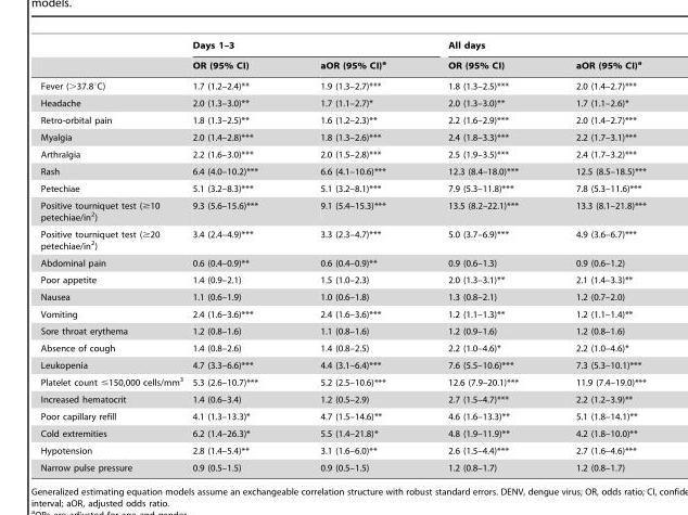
<table><thead><tr><td rowspan="2"></td><td colspan="2">Days 1–3</td><td colspan="2">All days</td></tr><tr><td>OR (95% CI)</td><td>aOR (95% CI)<sup>a</sup></td><td>OR (95% CI)</td><td>aOR (95% CI)<sup>a</sup></td></tr></thead><tbody><tr><td>Fever (&gt;37.8°C)</td><td>1.7 (1.2–2.4)**</td><td>1.9 (1.3–2.7)***</td><td>1.8 (1.3–2.5)***</td><td>2.0 (1.4–2.7)***</td></tr><tr><td>Headache</td><td>2.0 (1.3–3.0)**</td><td>1.7 (1.1–2.7)*</td><td>2.0 (1.3–3.0)**</td><td>1.7 (1.1–2.6)*</td></tr><tr><td>Retro-orbital pain</td><td>1.8 (1.3–2.5)**</td><td>1.6 (1.2–2.3)**</td><td>2.2 (1.6–2.9)***</td><td>2.0 (1.4–2.7)***</td></tr><tr><td>Myalgia</td><td>2.0 (1.4–2.8)***</td><td>1.8 (1.3–2.6)***</td><td>2.4 (1.8–3.3)***</td><td>2.2 (1.7–3.1)***</td></tr><tr><td>Arthralgia</td><td>2.2 (1.6–3.0)***</td><td>2.0 (1.5–2.8)***</td><td>2.5 (1.9–3.5)***</td><td>2.4 (1.7–3.2)***</td></tr><tr><td>Rash</td><td>6.4 (4.0–10.2)***</td><td>6.6 (4.1–10.6)***</td><td>12.3 (8.4–18.0)***</td><td>12.5 (8.5–18.5)***</td></tr><tr><td>Petechiae</td><td>5.1 (3.2–8.3)***</td><td>5.1 (3.2–8.1)***</td><td>7.9 (5.3–11.8)***</td><td>7.8 (5.3–11.6)***</td></tr><tr><td>Positive tourniquet test (≥10 petechiae/in<sup>2</sup>)</td><td>9.3 (5.6–15.6)***</td><td>9.1 (5.4–15.3)***</td><td>13.5 (8.2–22.1)***</td><td>13.3 (8.1–21.8)***</td></tr><tr><td>Positive tourniquet test (≥20 petechiae/in<sup>2</sup>)</td><td>3.4 (2.4–4.9)***</td><td>3.3 (2.3–4.7)***</td><td>5.0 (3.7–6.9)***</td><td>4.9 (3.6–6.7)***</td></tr><tr><td>Abdominal pain</td><td>0.6 (0.4–0.9)**</td><td>0.6 (0.4–0.9)**</td><td>0.9 (0.6–1.3)</td><td>0.9 (0.6–1.2)</td></tr><tr><td>Poor appetite</td><td>1.4 (0.9–2.1)</td><td>1.5 (1.0–2.3)</td><td>2.0 (1.3–3.1)**</td><td>2.1 (1.4–3.3)**</td></tr><tr><td>Nausea</td><td>1.1 (0.6–1.9)</td><td>1.0 (0.6–1.8)</td><td>1.3 (0.8–2.1)</td><td>1.2 (0.7–2.0)</td></tr><tr><td>Vomiting</td><td>2.4 (1.6–3.6)***</td><td>2.4 (1.6–3.6)***</td><td>1.2 (1.1–1.3)**</td><td>1.2 (1.1–1.4)**</td></tr><tr><td>Sore throat erythema</td><td>1.2 (0.8–1.6)</td><td>1.1 (0.8–1.6)</td><td>1.2 (0.9–1.6)</td><td>1.2 (0.8–1.6)</td></tr><tr><td>Absence of cough</td><td>1.4 (0.8–2.6)</td><td>1.4 (0.8–2.5)</td><td>2.2 (1.0–4.6)*</td><td>2.2 (1.0–4.6)*</td></tr><tr><td>Leukopenia</td><td>4.7 (3.3–6.6)***</td><td>4.4 (3.1–6.4)***</td><td>7.6 (5.5–10.6)***</td><td>7.3 (5.3–10.1)***</td></tr><tr><td>Platelet count ≤150,000 cells/mm<sup>3</sup></td><td>5.3 (2.6–10.7)***</td><td>5.2 (2.5–10.6)***</td><td>12.6 (7.9–20.1)***</td><td>11.9 (7.4–19.0)***</td></tr><tr><td>Increased hematocrit</td><td>1.4 (0.6–3.4)</td><td>1.2 (0.5–2.9)</td><td>2.7 (1.5–4.7)***</td><td>2.2 (1.2–3.9)**</td></tr><tr><td>Poor capillary refill</td><td>4.1 (1.3–13.3)*</td><td>4.7 (1.5–14.6)**</td><td>4.6 (1.6–13.3)**</td><td>5.1 (1.8–14.1)**</td></tr><tr><td>Cold extremities</td><td>6.2 (1.4–26.3)*</td><td>5.5 (1.4–21.8)*</td><td>4.8 (1.9–11.9)**</td><td>4.2 (1.8–10.0)**</td></tr><tr><td>Hypotension</td><td>2.8 (1.4–5.4)**</td><td>3.1 (1.6–6.0)**</td><td>2.6 (1.5–4.4)***</td><td>2.7 (1.6–4.6)***</td></tr><tr><td>Narrow pulse pressure</td><td>0.9 (0.5–1.5)</td><td>0.9 (0.5–1.5)</td><td>1.2 (0.8–1.7)</td><td>1.2 (0.8–1.7)</td></tr></tbody></table>